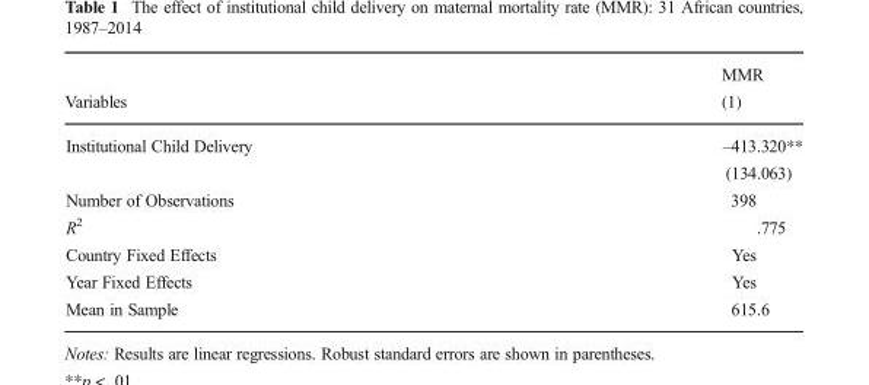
<table><thead><tr><td rowspan="2">Variables</td><td rowspan="2">MMR (1)</td></tr><tr></tr></thead><tbody><tr><td rowspan="2">Institutional Child Delivery</td><td>–413.320**</td></tr><tr><td>(134.063)</td></tr><tr><td>Number of Observations</td><td>398</td></tr><tr><td>R<sup>2</sup></td><td>.775</td></tr><tr><td>Country Fixed Effects</td><td>Yes</td></tr><tr><td>Year Fixed Effects</td><td>Yes</td></tr><tr><td>Mean in Sample</td><td>615.6</td></tr></tbody></table>